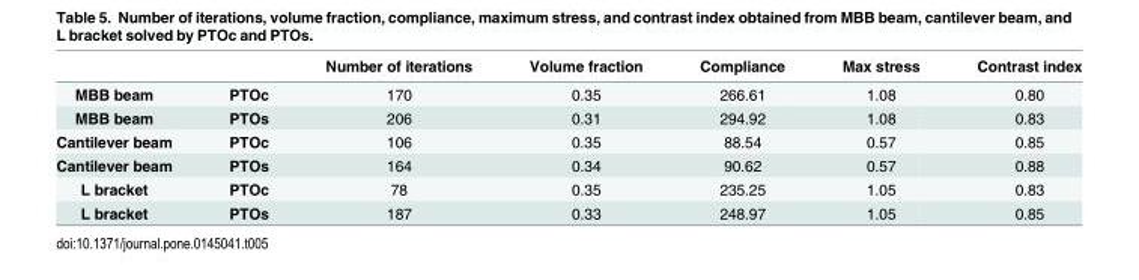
<table><thead><tr><td></td><td></td><td>Number of iterations</td><td>Volume fraction</td><td>Compliance</td><td>Max stress</td><td>Contrast index</td></tr></thead><tbody><tr><td>MBB beam</td><td>PTOc</td><td>170</td><td>0.35</td><td>266.61</td><td>1.08</td><td>0.80</td></tr><tr><td>MBB beam</td><td>PTOs</td><td>206</td><td>0.31</td><td>294.92</td><td>1.08</td><td>0.83</td></tr><tr><td>Cantilever beam</td><td>PTOc</td><td>106</td><td>0.35</td><td>88.54</td><td>0.57</td><td>0.85</td></tr><tr><td>Cantilever beam</td><td>PTOs</td><td>164</td><td>0.34</td><td>90.62</td><td>0.57</td><td>0.88</td></tr><tr><td>L bracket</td><td>PTOc</td><td>78</td><td>0.35</td><td>235.25</td><td>1.05</td><td>0.83</td></tr><tr><td>L bracket</td><td>PTOs</td><td>187</td><td>0.33</td><td>248.97</td><td>1.05</td><td>0.85</td></tr></tbody></table>